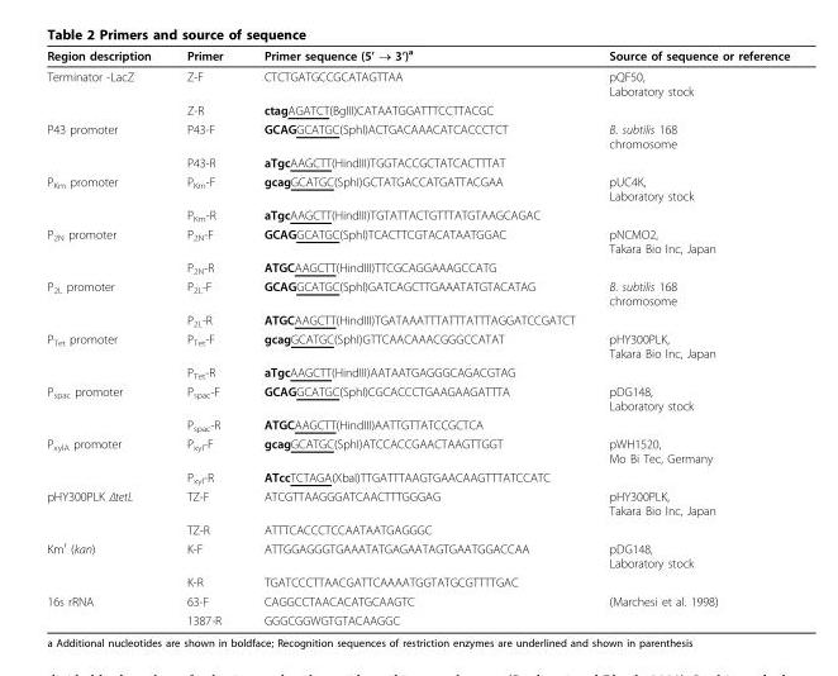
<table><thead><tr><td>Region description</td><td>Primer</td><td>Primer sequence (5’ → 3’)<sup>a</sup></td><td>Source of sequence or reference</td></tr></thead><tbody><tr><td rowspan="2">Terminator -LacZ</td><td>Z-F</td><td>CTCTGATGCCGCATAGTTAA</td><td>pQF50, Laboratory stock</td></tr><tr><td>Z-R</td><td>ctagAGATCT(BglII)CATAATGGATTTCCTTACGC</td><td></td></tr><tr><td rowspan="2">P43 promoter</td><td>P43-F</td><td>GCAGGCATGC(SphI)ACTGACAAACATCACCCTCT</td><td>B. subtilis 168 chromosome</td></tr><tr><td>P43-R</td><td>aTgcAAGCTT(HindIII)TGGTACCGCTATCACTTTAT</td><td></td></tr><tr><td rowspan="2">P<sub>Km</sub> promoter</td><td>P<sub>Km</sub>-F</td><td>gcagGCATGC(SphI)GCTATGACCATGATTACGAA</td><td>pUC4K, Laboratory stock</td></tr><tr><td>P<sub>Km</sub>-R</td><td>aTgcAAGCTT(HindIII)TGTATTACTGTTTATGTAAGCAGAC</td><td></td></tr><tr><td rowspan="2">P<sub>2N</sub> promoter</td><td>P<sub>2N</sub>-F</td><td>GCAGGCATGC(SphI)TCACTTCGTACATAATGGAC</td><td>pNCMO2, Takara Bio Inc, Japan</td></tr><tr><td>P<sub>2N</sub>-R</td><td>ATGCAAGCTT(HindIII)TTCGCAGGAAAGCCATG</td><td></td></tr><tr><td rowspan="2">P<sub>2L</sub> promoter</td><td>P<sub>2L</sub>-F</td><td>GCAGGCATGC(SphI)GATCAGCTTGAAATATGTACATAG</td><td>B. subtilis 168 chromosome</td></tr><tr><td>P<sub>2L</sub>-R</td><td>ATGCAAGCTT(HindIII)TGATAAATTTATTTATTTAGGATCCGATCT</td><td></td></tr><tr><td rowspan="2">P<sub>Tet</sub> promoter</td><td>P<sub>Tet</sub>-F</td><td>gcagGCATGC(SphI)GTTCAACAAACGGGCCATAT</td><td>pHY300PLK, Takara Bio Inc, Japan</td></tr><tr><td>P<sub>Tet</sub>-R</td><td>aTgcAAGCTT(HindIII)AATAATGAGGGCAGACGTAG</td><td></td></tr><tr><td rowspan="2">P<sub>spac</sub> promoter</td><td>P<sub>spac</sub>-F</td><td>GCAGGCATGC(SphI)CGCACCCTGAAGAAGATTTA</td><td>pDG148, Laboratory stock</td></tr><tr><td>P<sub>spac</sub>-R</td><td>ATGCAAGCTT(HindIII)AATTGTTATCCGCTCA</td><td></td></tr><tr><td rowspan="2">P<sub>xylA</sub> promoter</td><td>P<sub>xyl</sub>-F</td><td>gcagGCATGC(SphI)ATCCACCGAACTAAGTTGGT</td><td>pWH1520, Mo Bi Tec, Germany</td></tr><tr><td>P<sub>xyl</sub>-R</td><td>ATccTCTAGA(XbaI)TTGATTTAAGTGAACAAGTTTATCCATC</td><td></td></tr><tr><td rowspan="2">pHY300PLK ΔtetL</td><td>TZ-F</td><td>ATCGTTAAGGGATCAACTTTGGGAG</td><td>pHY300PLK, Takara Bio Inc, Japan</td></tr><tr><td>TZ-R</td><td>ATTTCACCCTCCAATAATGAGGGC</td><td></td></tr><tr><td rowspan="2">Km<sup>r</sup> (kan)</td><td>K-F</td><td>ATTGGAGGGTGAAATATGAGAATAGTGAATGGACCAA</td><td>pDG148, Laboratory stock</td></tr><tr><td>K-R</td><td>TGATCCCTTAACGATTCAAAATGGTATGCGTTTTGAC</td><td></td></tr><tr><td rowspan="2">16s rRNA</td><td>63-F</td><td>CAGGCCTAACACATGCAAGTC</td><td>(Marchesi et al. 1998)</td></tr><tr><td>1387-R</td><td>GGGCGGWGTGTACAAGGC</td><td></td></tr></tbody></table>